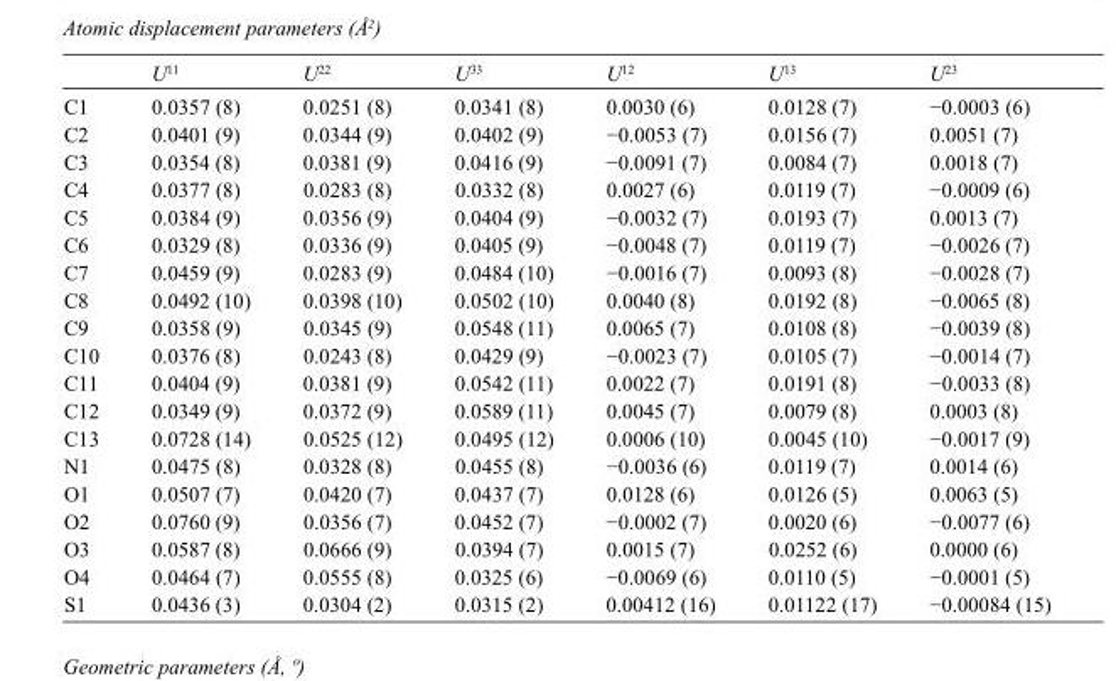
<table><thead><tr><td></td><td>U<sup>11</sup></td><td>U<sup>22</sup></td><td>U<sup>33</sup></td><td>U<sup>12</sup></td><td>U<sup>13</sup></td><td>U<sup>23</sup></td></tr></thead><tbody><tr><td>C1</td><td>0.0357 (8)</td><td>0.0251 (8)</td><td>0.0341 (8)</td><td>0.0030 (6)</td><td>0.0128 (7)</td><td>−0.0003 (6)</td></tr><tr><td>C2</td><td>0.0401 (9)</td><td>0.0344 (9)</td><td>0.0402 (9)</td><td>−0.0053 (7)</td><td>0.0156 (7)</td><td>0.0051 (7)</td></tr><tr><td>C3</td><td>0.0354 (8)</td><td>0.0381 (9)</td><td>0.0416 (9)</td><td>−0.0091 (7)</td><td>0.0084 (7)</td><td>0.0018 (7)</td></tr><tr><td>C4</td><td>0.0377 (8)</td><td>0.0283 (8)</td><td>0.0332 (8)</td><td>0.0027 (6)</td><td>0.0119 (7)</td><td>−0.0009 (6)</td></tr><tr><td>C5</td><td>0.0384 (9)</td><td>0.0356 (9)</td><td>0.0404 (9)</td><td>−0.0032 (7)</td><td>0.0193 (7)</td><td>0.0013 (7)</td></tr><tr><td>C6</td><td>0.0329 (8)</td><td>0.0336 (9)</td><td>0.0405 (9)</td><td>−0.0048 (7)</td><td>0.0119 (7)</td><td>−0.0026 (7)</td></tr><tr><td>C7</td><td>0.0459 (9)</td><td>0.0283 (9)</td><td>0.0484 (10)</td><td>−0.0016 (7)</td><td>0.0093 (8)</td><td>−0.0028 (7)</td></tr><tr><td>C8</td><td>0.0492 (10)</td><td>0.0398 (10)</td><td>0.0502 (10)</td><td>0.0040 (8)</td><td>0.0192 (8)</td><td>−0.0065 (8)</td></tr><tr><td>C9</td><td>0.0358 (9)</td><td>0.0345 (9)</td><td>0.0548 (11)</td><td>0.0065 (7)</td><td>0.0108 (8)</td><td>−0.0039 (8)</td></tr><tr><td>C10</td><td>0.0376 (8)</td><td>0.0243 (8)</td><td>0.0429 (9)</td><td>−0.0023 (7)</td><td>0.0105 (7)</td><td>−0.0014 (7)</td></tr><tr><td>C11</td><td>0.0404 (9)</td><td>0.0381 (9)</td><td>0.0542 (11)</td><td>0.0022 (7)</td><td>0.0191 (8)</td><td>−0.0033 (8)</td></tr><tr><td>C12</td><td>0.0349 (9)</td><td>0.0372 (9)</td><td>0.0589 (11)</td><td>0.0045 (7)</td><td>0.0079 (8)</td><td>0.0003 (8)</td></tr><tr><td>C13</td><td>0.0728 (14)</td><td>0.0525 (12)</td><td>0.0495 (12)</td><td>0.0006 (10)</td><td>0.0045 (10)</td><td>−0.0017 (9)</td></tr><tr><td>N1</td><td>0.0475 (8)</td><td>0.0328 (8)</td><td>0.0455 (8)</td><td>−0.0036 (6)</td><td>0.0119 (7)</td><td>0.0014 (6)</td></tr><tr><td>O1</td><td>0.0507 (7)</td><td>0.0420 (7)</td><td>0.0437 (7)</td><td>0.0128 (6)</td><td>0.0126 (5)</td><td>0.0063 (5)</td></tr><tr><td>O2</td><td>0.0760 (9)</td><td>0.0356 (7)</td><td>0.0452 (7)</td><td>−0.0002 (7)</td><td>0.0020 (6)</td><td>−0.0077 (6)</td></tr><tr><td>O3</td><td>0.0587 (8)</td><td>0.0666 (9)</td><td>0.0394 (7)</td><td>0.0015 (7)</td><td>0.0252 (6)</td><td>0.0000 (6)</td></tr><tr><td>O4</td><td>0.0464 (7)</td><td>0.0555 (8)</td><td>0.0325 (6)</td><td>−0.0069 (6)</td><td>0.0110 (5)</td><td>−0.0001 (5)</td></tr><tr><td>S1</td><td>0.0436 (3)</td><td>0.0304 (2)</td><td>0.0315 (2)</td><td>0.00412 (16)</td><td>0.01122 (17)</td><td>−0.00084 (15)</td></tr></tbody></table>